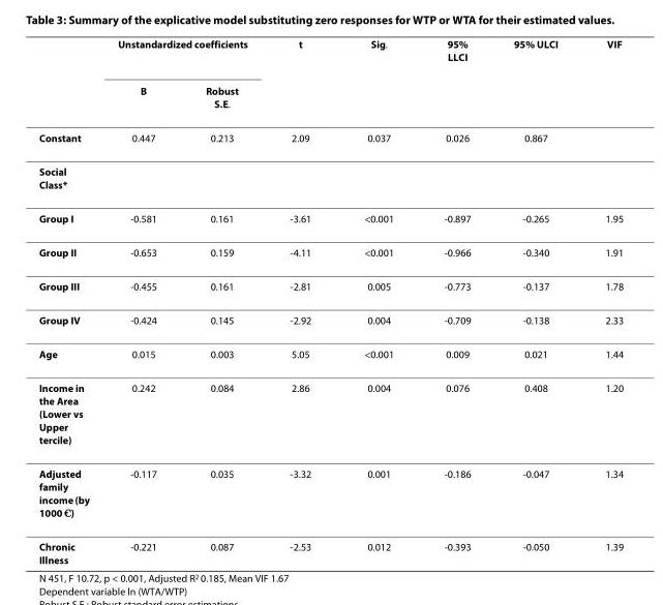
<table><thead><tr><td rowspan="2"></td><td colspan="2">Unstandardized coefficients</td><td rowspan="2">t</td><td rowspan="2">Sig.</td><td rowspan="2">95% LLCI</td><td rowspan="2">95% ULCI</td><td rowspan="2">VIF</td></tr><tr><td>B</td><td>Robust S.E.</td></tr></thead><tbody><tr><td>Constant</td><td>0.447</td><td>0.213</td><td>2.09</td><td>0.037</td><td>0.026</td><td>0.867</td><td></td></tr><tr><td colspan="8">Social Class*</td></tr><tr><td>Group I</td><td>-0.581</td><td>0.161</td><td>-3.61</td><td>&lt;0.001</td><td>-0.897</td><td>-0.265</td><td>1.95</td></tr><tr><td>Group II</td><td>-0.653</td><td>0.159</td><td>-4.11</td><td>&lt;0.001</td><td>-0.966</td><td>-0.340</td><td>1.91</td></tr><tr><td>Group III</td><td>-0.455</td><td>0.161</td><td>-2.81</td><td>0.005</td><td>-0.773</td><td>-0.137</td><td>1.78</td></tr><tr><td>Group IV</td><td>-0.424</td><td>0.145</td><td>-2.92</td><td>0.004</td><td>-0.709</td><td>-0.138</td><td>2.33</td></tr><tr><td>Age</td><td>0.015</td><td>0.003</td><td>5.05</td><td>&lt;0.001</td><td>0.009</td><td>0.021</td><td>1.44</td></tr><tr><td>Income in the Area (Lower vs Upper tercile)</td><td>0.242</td><td>0.084</td><td>2.86</td><td>0.004</td><td>0.076</td><td>0.408</td><td>1.20</td></tr><tr><td>Adjusted family income (by 1000 €)</td><td>-0.117</td><td>0.035</td><td>-3.32</td><td>0.001</td><td>-0.186</td><td>-0.047</td><td>1.34</td></tr><tr><td>Chronic Illness</td><td>-0.221</td><td>0.087</td><td>-2.53</td><td>0.012</td><td>-0.393</td><td>-0.050</td><td>1.39</td></tr></tbody></table>